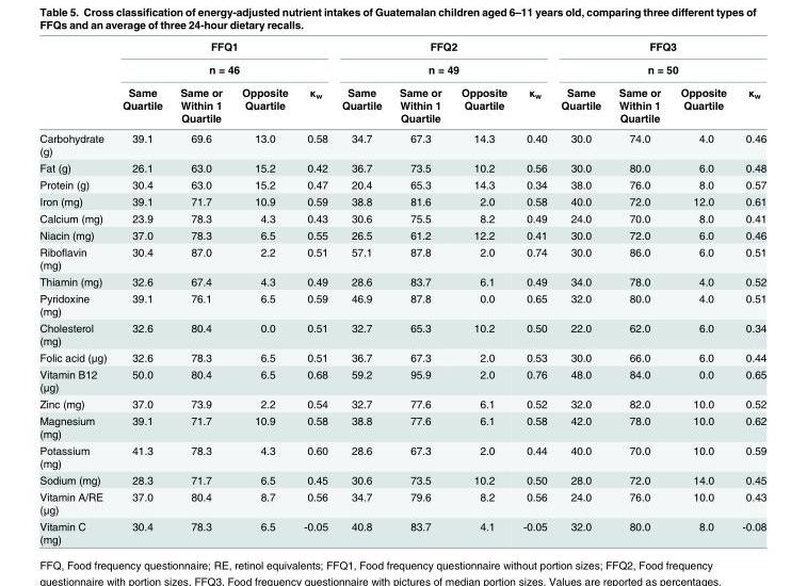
<table><thead><tr><td rowspan="3"></td><td rowspan="2" colspan="4">FFQ1 n = 46</td><td rowspan="2" colspan="4">FFQ2 n = 49</td><td rowspan="2" colspan="4">FFQ3 n = 50</td></tr><tr></tr><tr><td>Same Quartile</td><td>Same or Within 1 Quartile</td><td>Opposite Quartile</td><td>κ<sub>w</sub></td><td>Same Quartile</td><td>Same or Within 1 Quartile</td><td>Opposite Quartile</td><td>κ<sub>w</sub></td><td>Same Quartile</td><td>Same or Within 1 Quartile</td><td>Opposite Quartile</td><td>κ<sub>w</sub></td></tr></thead><tbody><tr><td>Carbohydrate (g)</td><td>39.1</td><td>69.6</td><td>13.0</td><td>0.58</td><td>34.7</td><td>67.3</td><td>14.3</td><td>0.40</td><td>30.0</td><td>74.0</td><td>4.0</td><td>0.46</td></tr><tr><td>Fat (g)</td><td>26.1</td><td>63.0</td><td>15.2</td><td>0.42</td><td>36.7</td><td>73.5</td><td>10.2</td><td>0.56</td><td>30.0</td><td>80.0</td><td>6.0</td><td>0.48</td></tr><tr><td>Protein (g)</td><td>30.4</td><td>63.0</td><td>15.2</td><td>0.47</td><td>20.4</td><td>65.3</td><td>14.3</td><td>0.34</td><td>38.0</td><td>76.0</td><td>8.0</td><td>0.57</td></tr><tr><td>Iron (mg)</td><td>39.1</td><td>71.7</td><td>10.9</td><td>0.59</td><td>38.8</td><td>81.6</td><td>2.0</td><td>0.58</td><td>40.0</td><td>72.0</td><td>12.0</td><td>0.61</td></tr><tr><td>Calcium (mg)</td><td>23.9</td><td>78.3</td><td>4.3</td><td>0.43</td><td>30.6</td><td>75.5</td><td>8.2</td><td>0.49</td><td>24.0</td><td>70.0</td><td>8.0</td><td>0.41</td></tr><tr><td>Niacin (mg)</td><td>37.0</td><td>78.3</td><td>6.5</td><td>0.55</td><td>26.5</td><td>61.2</td><td>12.2</td><td>0.41</td><td>30.0</td><td>72.0</td><td>6.0</td><td>0.46</td></tr><tr><td>Riboflavin (mg)</td><td>30.4</td><td>87.0</td><td>2.2</td><td>0.51</td><td>57.1</td><td>87.8</td><td>2.0</td><td>0.74</td><td>30.0</td><td>86.0</td><td>6.0</td><td>0.51</td></tr><tr><td>Thiamin (mg)</td><td>32.6</td><td>67.4</td><td>4.3</td><td>0.49</td><td>28.6</td><td>83.7</td><td>6.1</td><td>0.49</td><td>34.0</td><td>78.0</td><td>4.0</td><td>0.52</td></tr><tr><td>Pyridoxine (mg)</td><td>39.1</td><td>76.1</td><td>6.5</td><td>0.59</td><td>46.9</td><td>87.8</td><td>0.0</td><td>0.65</td><td>32.0</td><td>80.0</td><td>4.0</td><td>0.51</td></tr><tr><td>Cholesterol (mg)</td><td>32.6</td><td>80.4</td><td>0.0</td><td>0.51</td><td>32.7</td><td>65.3</td><td>10.2</td><td>0.50</td><td>22.0</td><td>62.0</td><td>6.0</td><td>0.34</td></tr><tr><td>Folic acid (μg)</td><td>32.6</td><td>78.3</td><td>6.5</td><td>0.51</td><td>36.7</td><td>67.3</td><td>2.0</td><td>0.53</td><td>30.0</td><td>66.0</td><td>6.0</td><td>0.44</td></tr><tr><td>Vitamin B12 (μg)</td><td>50.0</td><td>80.4</td><td>6.5</td><td>0.68</td><td>59.2</td><td>95.9</td><td>2.0</td><td>0.76</td><td>48.0</td><td>84.0</td><td>0.0</td><td>0.65</td></tr><tr><td>Zinc (mg)</td><td>37.0</td><td>73.9</td><td>2.2</td><td>0.54</td><td>32.7</td><td>77.6</td><td>6.1</td><td>0.52</td><td>32.0</td><td>82.0</td><td>10.0</td><td>0.52</td></tr><tr><td>Magnesium (mg)</td><td>39.1</td><td>71.7</td><td>10.9</td><td>0.58</td><td>38.8</td><td>77.6</td><td>6.1</td><td>0.58</td><td>42.0</td><td>78.0</td><td>10.0</td><td>0.62</td></tr><tr><td>Potassium (mg)</td><td>41.3</td><td>78.3</td><td>4.3</td><td>0.60</td><td>28.6</td><td>67.3</td><td>2.0</td><td>0.44</td><td>40.0</td><td>70.0</td><td>10.0</td><td>0.59</td></tr><tr><td>Sodium (mg)</td><td>28.3</td><td>71.7</td><td>6.5</td><td>0.45</td><td>30.6</td><td>73.5</td><td>10.2</td><td>0.50</td><td>28.0</td><td>72.0</td><td>14.0</td><td>0.45</td></tr><tr><td>Vitamin A/RE (μg)</td><td>37.0</td><td>80.4</td><td>8.7</td><td>0.56</td><td>34.7</td><td>79.6</td><td>8.2</td><td>0.56</td><td>24.0</td><td>76.0</td><td>10.0</td><td>0.43</td></tr><tr><td>Vitamin C (mg)</td><td>30.4</td><td>78.3</td><td>6.5</td><td>-0.05</td><td>40.8</td><td>83.7</td><td>4.1</td><td>-0.05</td><td>32.0</td><td>80.0</td><td>8.0</td><td>-0.08</td></tr></tbody></table>